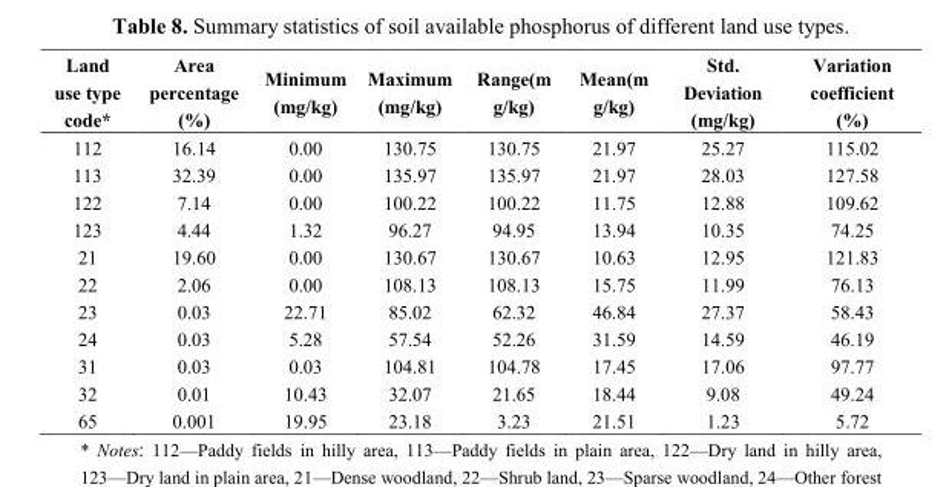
<table><thead><tr><td>Land use type code*</td><td>Area percentage (%)</td><td>Minimum (mg/kg)</td><td>Maximum (mg/kg)</td><td>Range(m g/kg)</td><td>Mean(m g/kg)</td><td>Std. Deviation (mg/kg)</td><td>Variation coefficient (%)</td></tr></thead><tbody><tr><td>112</td><td>16.14</td><td>0.00</td><td>130.75</td><td>130.75</td><td>21.97</td><td>25.27</td><td>115.02</td></tr><tr><td>113</td><td>32.39</td><td>0.00</td><td>135.97</td><td>135.97</td><td>21.97</td><td>28.03</td><td>127.58</td></tr><tr><td>122</td><td>7.14</td><td>0.00</td><td>100.22</td><td>100.22</td><td>11.75</td><td>12.88</td><td>109.62</td></tr><tr><td>123</td><td>4.44</td><td>1.32</td><td>96.27</td><td>94.95</td><td>13.94</td><td>10.35</td><td>74.25</td></tr><tr><td>21</td><td>19.60</td><td>0.00</td><td>130.67</td><td>130.67</td><td>10.63</td><td>12.95</td><td>121.83</td></tr><tr><td>22</td><td>2.06</td><td>0.00</td><td>108.13</td><td>108.13</td><td>15.75</td><td>11.99</td><td>76.13</td></tr><tr><td>23</td><td>0.03</td><td>22.71</td><td>85.02</td><td>62.32</td><td>46.84</td><td>27.37</td><td>58.43</td></tr><tr><td>24</td><td>0.03</td><td>5.28</td><td>57.54</td><td>52.26</td><td>31.59</td><td>14.59</td><td>46.19</td></tr><tr><td>31</td><td>0.03</td><td>0.03</td><td>104.81</td><td>104.78</td><td>17.45</td><td>17.06</td><td>97.77</td></tr><tr><td>32</td><td>0.01</td><td>10.43</td><td>32.07</td><td>21.65</td><td>18.44</td><td>9.08</td><td>49.24</td></tr><tr><td>65</td><td>0.001</td><td>19.95</td><td>23.18</td><td>3.23</td><td>21.51</td><td>1.23</td><td>5.72</td></tr></tbody></table>